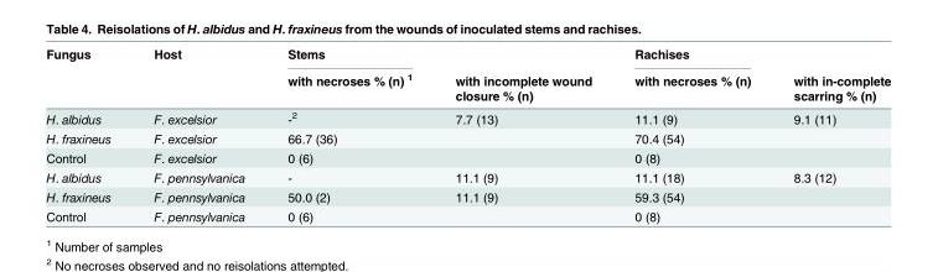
<table><thead><tr><td rowspan="2">Fungus</td><td rowspan="2">Host</td><td rowspan="2">Stems with necroses % (n) <sup>1</sup></td><td rowspan="2">with incomplete wound closure % (n)</td><td rowspan="2">Rachises with necroses % (n)</td><td rowspan="2">with in-complete scarring % (n)</td></tr><tr></tr></thead><tbody><tr><td>H. albidus</td><td>F. excelsior</td><td>-<sup>2</sup></td><td>7.7 (13)</td><td>11.1 (9)</td><td>9.1 (11)</td></tr><tr><td>H. fraxineus</td><td>F. excelsior</td><td>66.7 (36)</td><td></td><td>70.4 (54)</td><td></td></tr><tr><td>Control</td><td>F. excelsior</td><td>0 (6)</td><td></td><td>0 (8)</td><td></td></tr><tr><td>H. albidus</td><td>F. pennsylvanica</td><td>-</td><td>11.1 (9)</td><td>11.1 (18)</td><td>8.3 (12)</td></tr><tr><td>H. fraxineus</td><td>F. pennsylvanica</td><td>50.0 (2)</td><td>11.1 (9)</td><td>59.3 (54)</td><td></td></tr><tr><td>Control</td><td>F. pennsylvanica</td><td>0 (6)</td><td></td><td>0 (8)</td><td></td></tr></tbody></table>